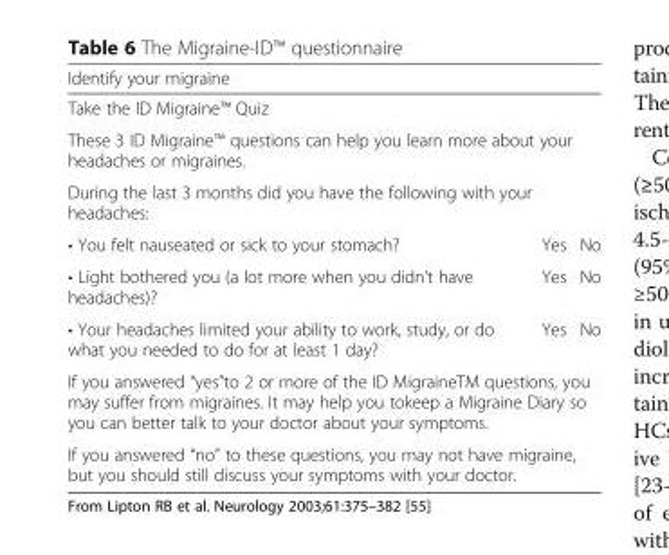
<table><thead><tr><td colspan="3">Identify your migraine</td></tr></thead><tbody><tr><td colspan="3">Take the ID Migraine™ Quiz</td></tr><tr><td colspan="3">These 3 ID Migraine™ questions can help you learn more about your headaches or migraines.</td></tr><tr><td colspan="3">During the last 3 months did you have the following with your headaches:</td></tr><tr><td>• You felt nauseated or sick to your stomach?</td><td>Yes</td><td>No</td></tr><tr><td>• Light bothered you (a lot more when you didn’t have headaches)?</td><td>Yes</td><td>No</td></tr><tr><td>• Your headaches limited your ability to work, study, or do what you needed to do for at least 1 day?</td><td>Yes</td><td>No</td></tr><tr><td colspan="3">If you answered “yes”to 2 or more of the ID MigraineTM questions, you may suffer from migraines. It may help you tokeep a Migraine Diary so you can better talk to your doctor about your symptoms.</td></tr><tr><td colspan="3">If you answered “no” to these questions, you may not have migraine, but you should still discuss your symptoms with your doctor.</td></tr></tbody></table>